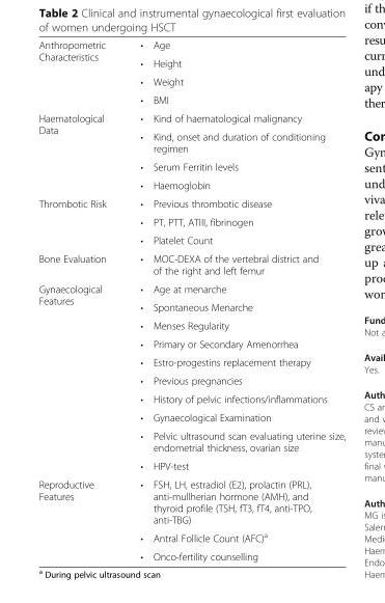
<table><tbody><tr><td rowspan="4">Anthropometric Characteristics</td><td>• Age</td></tr><tr><td>• Height</td></tr><tr><td>• Weight</td></tr><tr><td>• BMI</td></tr><tr><td rowspan="4">Haematological Data</td><td>• Kind of haematological malignancy</td></tr><tr><td>• Kind, onset and duration of conditioning regimen</td></tr><tr><td>• Serum Ferritin levels</td></tr><tr><td>• Haemoglobin</td></tr><tr><td rowspan="3">Thrombotic Risk</td><td>• Previous thrombotic disease</td></tr><tr><td>• PT, PTT, ATIII, fibrinogen</td></tr><tr><td>• Platelet Count</td></tr><tr><td>Bone Evaluation</td><td>• MOC-DEXA of the vertebral district and of the right and left femur</td></tr><tr><td rowspan="10">Gynaecological Features</td><td>• Age at menarche</td></tr><tr><td>• Spontaneous Menarche</td></tr><tr><td>• Menses Regularity</td></tr><tr><td>• Primary or Secondary Amenorrhea</td></tr><tr><td>• Estro-progestins replacement therapy</td></tr><tr><td>• Previous pregnancies</td></tr><tr><td>• History of pelvic infections/inflammations</td></tr><tr><td>• Gynaecological Examination</td></tr><tr><td>• Pelvic ultrasound scan evaluating uterine size, endometrial thickness, ovarian size</td></tr><tr><td>• HPV-test</td></tr><tr><td rowspan="3">Reproductive Features</td><td>• FSH, LH, estradiol (E2), prolactin (PRL), anti-mullherian hormone (AMH), and thyroid profile (TSH, fT3, fT4, anti-TPO, anti-TBG)</td></tr><tr><td>• Antral Follicle Count (AFC)<sup>a</sup></td></tr><tr><td>• Onco-fertility counselling</td></tr></tbody></table>